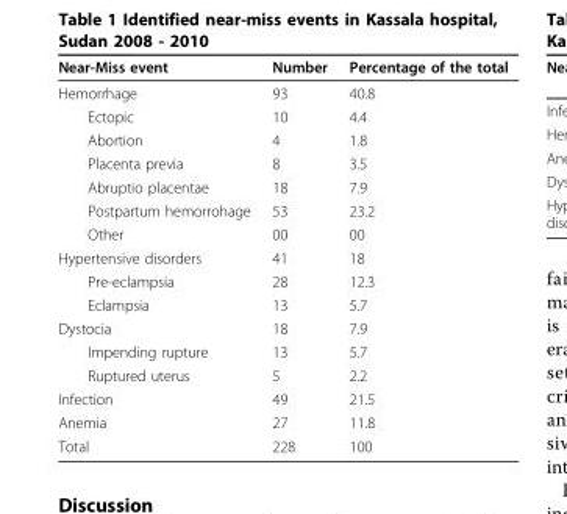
<table><thead><tr><td>Near-Miss event</td><td>Number</td><td>Percentage of the total</td></tr></thead><tbody><tr><td>Hemorrhage</td><td>93</td><td>40.8</td></tr><tr><td>Ectopic</td><td>10</td><td>4.4</td></tr><tr><td>Abortion</td><td>4</td><td>1.8</td></tr><tr><td>Placenta previa</td><td>8</td><td>3.5</td></tr><tr><td>Abruptio placentae</td><td>18</td><td>7.9</td></tr><tr><td>Postpartum hemorrohage</td><td>53</td><td>23.2</td></tr><tr><td>Other</td><td>00</td><td>00</td></tr><tr><td>Hypertensive disorders</td><td>41</td><td>18</td></tr><tr><td>Pre-eclampsia</td><td>28</td><td>12.3</td></tr><tr><td>Eclampsia</td><td>13</td><td>5.7</td></tr><tr><td>Dystocia</td><td>18</td><td>7.9</td></tr><tr><td>Impending rupture</td><td>13</td><td>5.7</td></tr><tr><td>Ruptured uterus</td><td>5</td><td>2.2</td></tr><tr><td>Infection</td><td>49</td><td>21.5</td></tr><tr><td>Anemia</td><td>27</td><td>11.8</td></tr><tr><td>Total</td><td>228</td><td>100</td></tr></tbody></table>